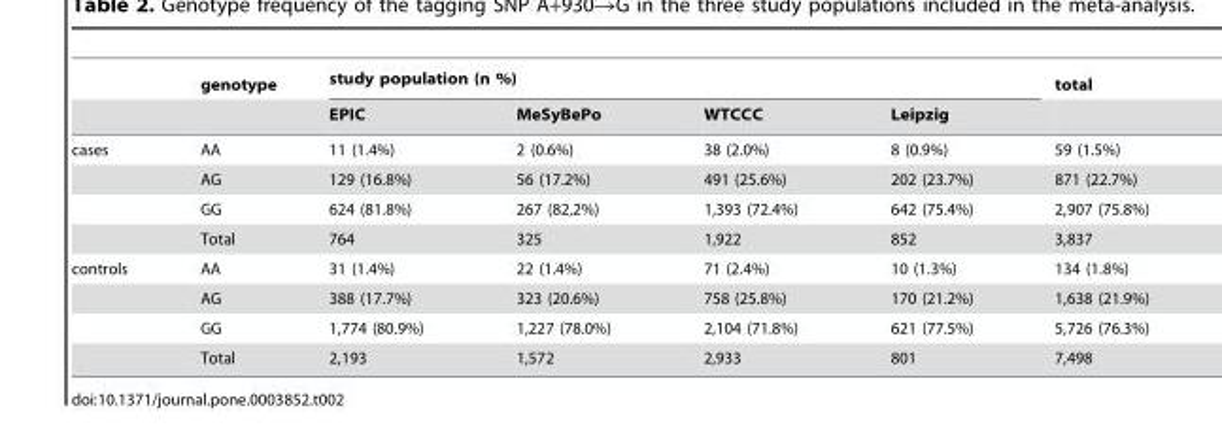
<table><thead><tr><td rowspan="2"></td><td rowspan="2">genotype</td><td colspan="4">study population (n %)</td><td rowspan="2">total</td></tr><tr><td>EPIC</td><td>MeSyBePo</td><td>WTCCC</td><td>Leipzig</td></tr></thead><tbody><tr><td rowspan="4">cases</td><td>AA</td><td>11 (1.4%)</td><td>2 (0.6%)</td><td>38 (2.0%)</td><td>8 (0.9%)</td><td>59 (1.5%)</td></tr><tr><td>AG</td><td>129 (16.8%)</td><td>56 (17.2%)</td><td>491 (25.6%)</td><td>202 (23.7%)</td><td>871 (22.7%)</td></tr><tr><td>GG</td><td>624 (81.8%)</td><td>267 (82,2%)</td><td>1,393 (72.4%)</td><td>642 (75.4%)</td><td>2,907 (75.8%)</td></tr><tr><td>Total</td><td>764</td><td>325</td><td>1,922</td><td>852</td><td>3,837</td></tr><tr><td rowspan="4">controls</td><td>AA</td><td>31 (1.4%)</td><td>22 (1.4%)</td><td>71 (2.4%)</td><td>10 (1.3%)</td><td>134 (1.8%)</td></tr><tr><td>AG</td><td>388 (17.7%)</td><td>323 (20.6%)</td><td>758 (25.8%)</td><td>170 (21.2%)</td><td>1,638 (21.9%)</td></tr><tr><td>GG</td><td>1,774 (80.9%)</td><td>1,227 (78.0%)</td><td>2,104 (71.8%)</td><td>621 (77.5%)</td><td>5,726 (76.3%)</td></tr><tr><td>Total</td><td>2,193</td><td>1,572</td><td>2,933</td><td>801</td><td>7,498</td></tr></tbody></table>